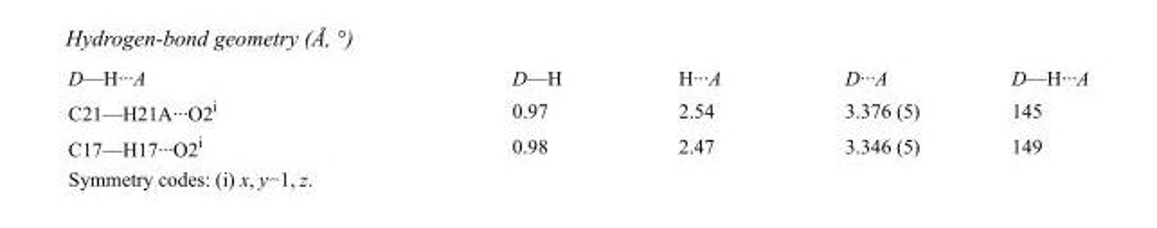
<table><tbody><tr><td>D—H···A</td><td>D—H</td><td>H···A</td><td>D···A</td><td>D—H···A</td></tr><tr><td>C21—H21A···O2<sup>i</sup></td><td>0.97</td><td>2.54</td><td>3.376 (5)</td><td>145</td></tr><tr><td>C17—H17···O2<sup>i</sup></td><td>0.98</td><td>2.47</td><td>3.346 (5)</td><td>149</td></tr></tbody></table>